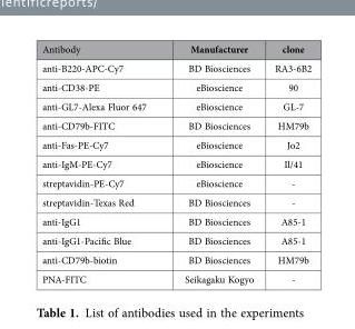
<table><thead><tr><td>Antibody</td><td>Manufacturer</td><td>clone</td></tr></thead><tbody><tr><td>anti-B220-APC-Cy7</td><td>BD Biosciences</td><td>RA3-6B2</td></tr><tr><td>anti-CD38-PE</td><td>eBioscience</td><td>90</td></tr><tr><td>anti-GL7-Alexa Fluor 647</td><td>eBioscience</td><td>GL-7</td></tr><tr><td>anti-CD79b-FITC</td><td>BD Biosciences</td><td>HM79b</td></tr><tr><td>anti-Fas-PE-Cy7</td><td>eBioscience</td><td>Jo2</td></tr><tr><td>anti-IgM-PE-Cy7</td><td>eBioscience</td><td>Il/41</td></tr><tr><td>streptavidin-PE-Cy7</td><td>eBioscience</td><td>-</td></tr><tr><td>streptavidin-Texas Red</td><td>BD Biosciences</td><td>-</td></tr><tr><td>anti-IgG1</td><td>BD Biosciences</td><td>A85-1</td></tr><tr><td>anti-IgG1-Pacific Blue</td><td>BD Biosciences</td><td>A85-1</td></tr><tr><td>anti-CD79b-biotin</td><td>BD Biosciences</td><td>HM79b</td></tr><tr><td>PNA-FITC</td><td>Seikagaku Kogyo</td><td>-</td></tr></tbody></table>